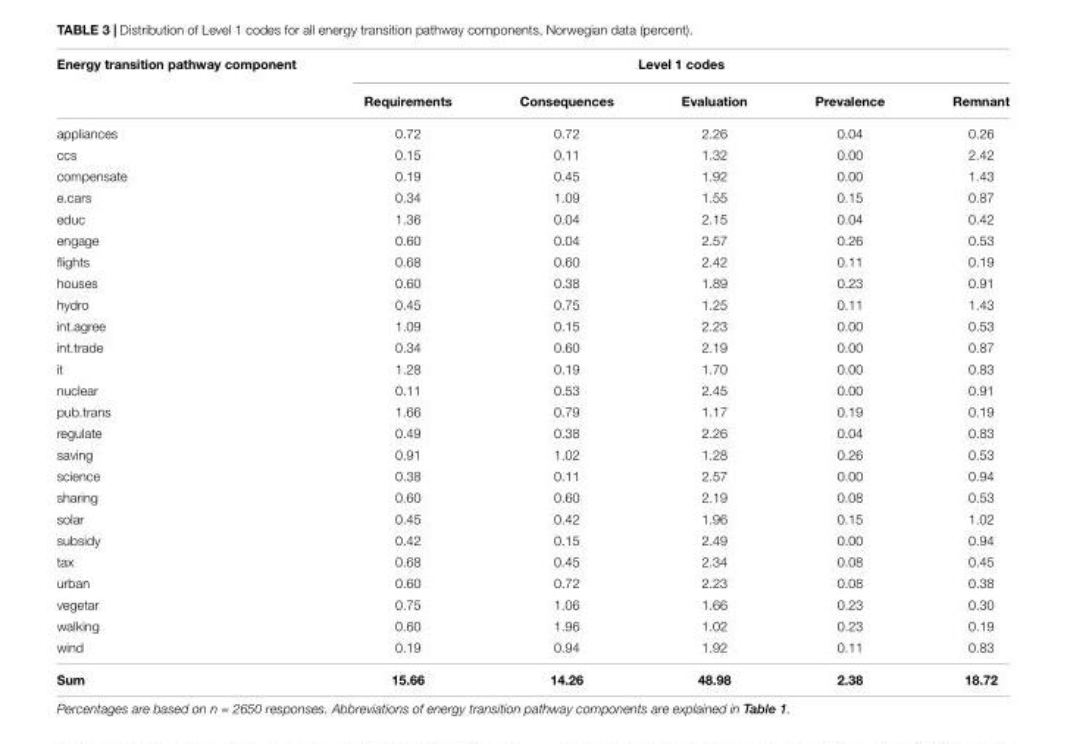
<table><thead><tr><td rowspan="2">Energy transition pathway component</td><td colspan="5">Level 1 codes</td></tr><tr><td>Requirements</td><td>Consequences</td><td>Evaluation</td><td>Prevalence</td><td>Remnant</td></tr></thead><tbody><tr><td>appliances</td><td>0.72</td><td>0.72</td><td>2.26</td><td>0.04</td><td>0.26</td></tr><tr><td>ccs</td><td>0.15</td><td>0.11</td><td>1.32</td><td>0.00</td><td>2.42</td></tr><tr><td>compensate</td><td>0.19</td><td>0.45</td><td>1.92</td><td>0.00</td><td>1.43</td></tr><tr><td>e.cars</td><td>0.34</td><td>1.09</td><td>1.55</td><td>0.15</td><td>0.87</td></tr><tr><td>educ</td><td>1.36</td><td>0.04</td><td>2.15</td><td>0.04</td><td>0.42</td></tr><tr><td>engage</td><td>0.60</td><td>0.04</td><td>2.57</td><td>0.26</td><td>0.53</td></tr><tr><td>flights</td><td>0.68</td><td>0.60</td><td>2.42</td><td>0.11</td><td>0.19</td></tr><tr><td>houses</td><td>0.60</td><td>0.38</td><td>1.89</td><td>0.23</td><td>0.91</td></tr><tr><td>hydro</td><td>0.45</td><td>0.75</td><td>1.25</td><td>0.11</td><td>1.43</td></tr><tr><td>int.agree</td><td>1.09</td><td>0.15</td><td>2.23</td><td>0.00</td><td>0.53</td></tr><tr><td>int.trade</td><td>0.34</td><td>0.60</td><td>2.19</td><td>0.00</td><td>0.87</td></tr><tr><td>it</td><td>1.28</td><td>0.19</td><td>1.70</td><td>0.00</td><td>0.83</td></tr><tr><td>nuclear</td><td>0.11</td><td>0.53</td><td>2.45</td><td>0.00</td><td>0.91</td></tr><tr><td>pub.trans</td><td>1.66</td><td>0.79</td><td>1.17</td><td>0.19</td><td>0.19</td></tr><tr><td>regulate</td><td>0.49</td><td>0.38</td><td>2.26</td><td>0.04</td><td>0.83</td></tr><tr><td>saving</td><td>0.91</td><td>1.02</td><td>1.28</td><td>0.26</td><td>0.53</td></tr><tr><td>science</td><td>0.38</td><td>0.11</td><td>2.57</td><td>0.00</td><td>0.94</td></tr><tr><td>sharing</td><td>0.60</td><td>0.60</td><td>2.19</td><td>0.08</td><td>0.53</td></tr><tr><td>solar</td><td>0.45</td><td>0.42</td><td>1.96</td><td>0.15</td><td>1.02</td></tr><tr><td>subsidy</td><td>0.42</td><td>0.15</td><td>2.49</td><td>0.00</td><td>0.94</td></tr><tr><td>tax</td><td>0.68</td><td>0.45</td><td>2.34</td><td>0.08</td><td>0.45</td></tr><tr><td>urban</td><td>0.60</td><td>0.72</td><td>2.23</td><td>0.08</td><td>0.38</td></tr><tr><td>vegetar</td><td>0.75</td><td>1.06</td><td>1.66</td><td>0.23</td><td>0.30</td></tr><tr><td>walking</td><td>0.60</td><td>1.96</td><td>1.02</td><td>0.23</td><td>0.19</td></tr><tr><td>wind</td><td>0.19</td><td>0.94</td><td>1.92</td><td>0.11</td><td>0.83</td></tr><tr><td>Sum</td><td>15.66</td><td>14.26</td><td>48.98</td><td>2.38</td><td>18.72</td></tr></tbody></table>